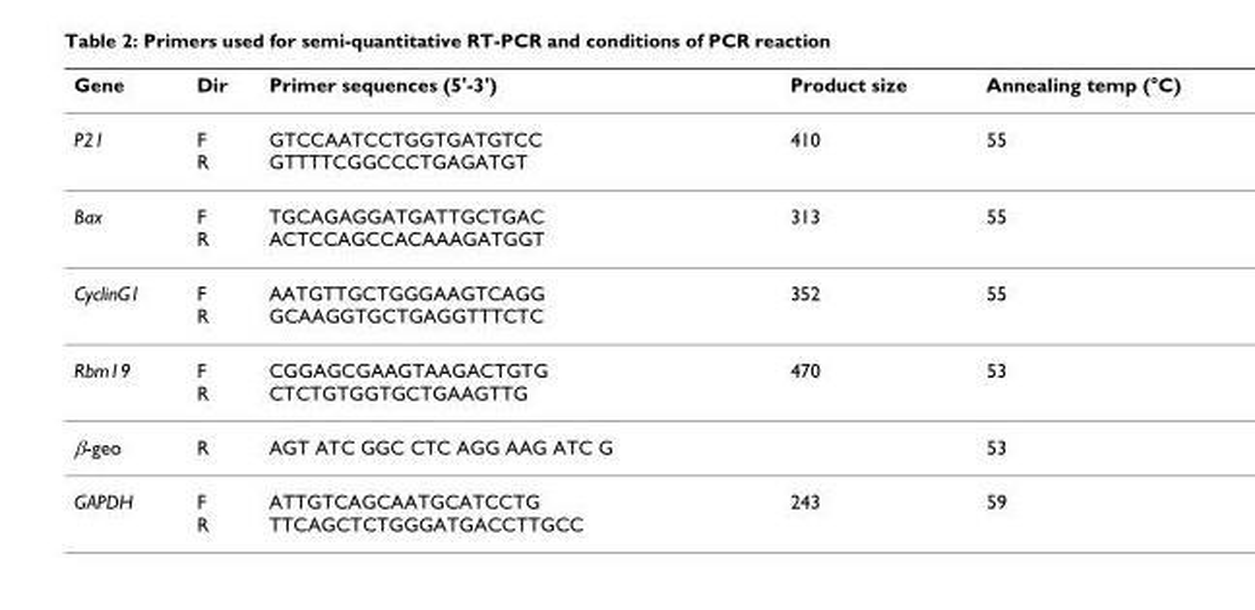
<table><thead><tr><td>Gene</td><td>Dir</td><td>Primer sequences (5&#x27;-3&#x27;)</td><td>Product size</td><td>Annealing temp (°C)</td></tr></thead><tbody><tr><td>P21</td><td>F R</td><td>GTCCAATCCTGGTGATGTCC GTTTTCGGCCCTGAGATGT</td><td>410</td><td>55</td></tr><tr><td>Bax</td><td>F R</td><td>TGCAGAGGATGATTGCTGAC ACTCCAGCCACAAAGATGGT</td><td>313</td><td>55</td></tr><tr><td>CyclinG1</td><td>F R</td><td>AATGTTGCTGGGAAGTCAGG GCAAGGTGCTGAGGTTTCTC</td><td>352</td><td>55</td></tr><tr><td>Rbm19</td><td>F R</td><td>CGGAGCGAAGTAAGACTGTG CTCTGTGGTGCTGAAGTTG</td><td>470</td><td>53</td></tr><tr><td>β-geo</td><td>R</td><td>AGT ATC GGC CTC AGG AAG ATC G</td><td></td><td>53</td></tr><tr><td>GAPDH</td><td>F R</td><td>ATTGTCAGCAATGCATCCTG TTCAGCTCTGGGATGACCTTGCC</td><td>243</td><td>59</td></tr></tbody></table>